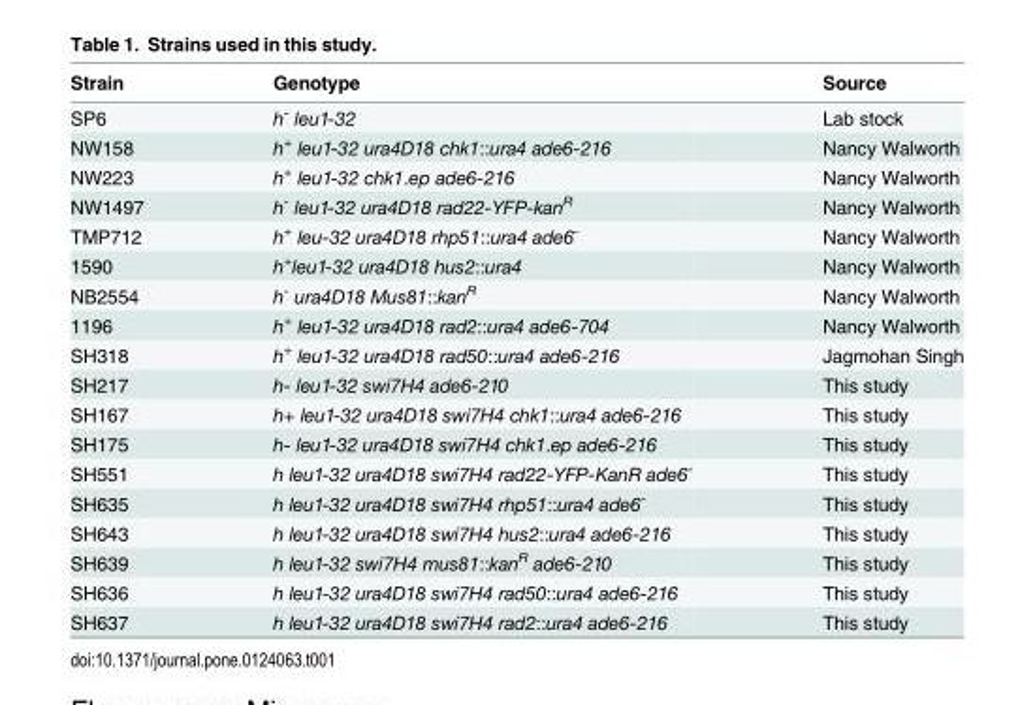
<table><thead><tr><td>Strain</td><td>Genotype</td><td>Source</td></tr></thead><tbody><tr><td>SP6</td><td>h<sup>-</sup> leu1-32</td><td>Lab stock</td></tr><tr><td>NW158</td><td>h<sup>+</sup> leu1-32 ura4D18 chk1::ura4 ade6-216</td><td>Nancy Walworth</td></tr><tr><td>NW223</td><td>h<sup>+</sup> leu1-32 chk1.ep ade6-216</td><td>Nancy Walworth</td></tr><tr><td>NW1497</td><td>h<sup>-</sup> leu1-32 ura4D18 rad22-YFP-kan<sup>R</sup></td><td>Nancy Walworth</td></tr><tr><td>TMP712</td><td>h<sup>+</sup> leu-32 ura4D18 rhp51::ura4 ade6<sup>-</sup></td><td>Nancy Walworth</td></tr><tr><td>1590</td><td>h<sup>+</sup>leu1-32 ura4D18 hus2::ura4</td><td>Nancy Walworth</td></tr><tr><td>NB2554</td><td>h<sup>-</sup> ura4D18 Mus81::kan<sup>R</sup></td><td>Nancy Walworth</td></tr><tr><td>1196</td><td>h<sup>+</sup> leu1-32 ura4D18 rad2::ura4 ade6-704</td><td>Nancy Walworth</td></tr><tr><td>SH318</td><td>h<sup>+</sup> leu1-32 ura4D18 rad50::ura4 ade6-216</td><td>Jagmohan Singh</td></tr><tr><td>SH217</td><td>h- leu1-32 swi7H4 ade6-210</td><td>This study</td></tr><tr><td>SH167</td><td>h+ leu1-32 ura4D18 swi7H4 chk1::ura4 ade6-216</td><td>This study</td></tr><tr><td>SH175</td><td>h- leu1-32 ura4D18 swi7H4 chk1.ep ade6-216</td><td>This study</td></tr><tr><td>SH551</td><td>h leu1-32 ura4D18 swi7H4 rad22-YFP-KanR ade6<sup>-</sup></td><td>This study</td></tr><tr><td>SH635</td><td>h leu1-32 ura4D18 swi7H4 rhp51::ura4 ade6<sup>-</sup></td><td>This study</td></tr><tr><td>SH643</td><td>h leu1-32 ura4D18 swi7H4 hus2::ura4 ade6-216</td><td>This study</td></tr><tr><td>SH639</td><td>h leu1-32 swi7H4 mus81::kan<sup>R</sup> ade6-210</td><td>This study</td></tr><tr><td>SH636</td><td>h leu1-32 ura4D18 swi7H4 rad50::ura4 ade6-216</td><td>This study</td></tr><tr><td>SH637</td><td>h leu1-32 ura4D18 swi7H4 rad2::ura4 ade6-216</td><td>This study</td></tr></tbody></table>